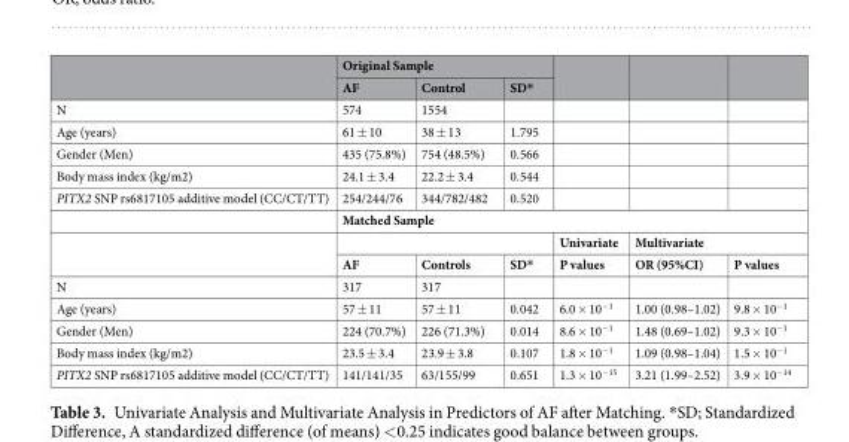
<table><thead><tr><td rowspan="2"></td><td colspan="3">Original Sample</td><td rowspan="2"></td><td rowspan="2"></td><td rowspan="2"></td></tr><tr><td>AF</td><td>Control</td><td>SD*</td></tr></thead><tbody><tr><td>N</td><td>574</td><td>1554</td><td></td><td></td><td></td><td></td></tr><tr><td>Age (years)</td><td>61 ± 10</td><td>38 ± 13</td><td>1.795</td><td></td><td></td><td></td></tr><tr><td>Gender (Men)</td><td>435 (75.8%)</td><td>754 (48.5%)</td><td>0.566</td><td></td><td></td><td></td></tr><tr><td>Body mass index (kg/m2)</td><td>24.1 ± 3.4</td><td>22.2 ± 3.4</td><td>0.544</td><td></td><td></td><td></td></tr><tr><td rowspan="4">PITX2 SNP rs6817105 additive model (CC/CT/TT)</td><td>254/244/76</td><td>344/782/482</td><td>0.520</td><td></td><td></td><td></td></tr><tr><td colspan="6">Matched Sample</td></tr><tr><td colspan="3"></td><td>Univariate</td><td colspan="2">Multivariate</td></tr><tr><td>AF</td><td>Controls</td><td>SD*</td><td>P values</td><td>OR (95%CI)</td><td>P values</td></tr><tr><td>N</td><td>317</td><td>317</td><td></td><td></td><td></td><td></td></tr><tr><td>Age (years)</td><td>57 ± 11</td><td>57 ± 11</td><td>0.042</td><td>6.0 × 10<sup>−1</sup></td><td>1.00 (0.98–1.02)</td><td>9.8 × 10<sup>−1</sup></td></tr><tr><td>Gender (Men)</td><td>224 (70.7%)</td><td>226 (71.3%)</td><td>0.014</td><td>8.6 × 10<sup>−1</sup></td><td>1.48 (0.69–1.02)</td><td>9.3 × 10<sup>−1</sup></td></tr><tr><td>Body mass index (kg/m2)</td><td>23.5 ± 3.4</td><td>23.9 ± 3.8</td><td>0.107</td><td>1.8 × 10<sup>−1</sup></td><td>1.09 (0.98–1.04)</td><td>1.5 × 10<sup>−1</sup></td></tr><tr><td>PITX2 SNP rs6817105 additive model (CC/CT/TT)</td><td>141/141/35</td><td>63/155/99</td><td>0.651</td><td>1.3 × 10<sup>−15</sup></td><td>3.21 (1.99–2.52)</td><td>3.9 × 10<sup>−14</sup></td></tr></tbody></table>